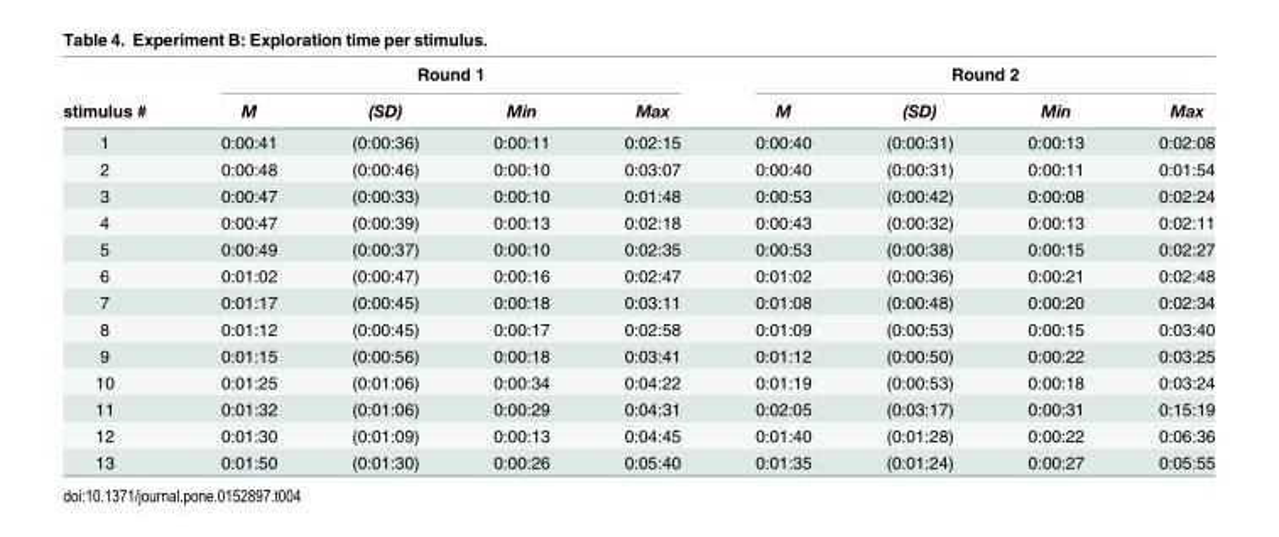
<table><thead><tr><td rowspan="2">stimulus #</td><td colspan="4">Round 1</td><td colspan="4">Round 2</td></tr><tr><td>M</td><td>(SD)</td><td>Min</td><td>Max</td><td>M</td><td>(SD)</td><td>Min</td><td>Max</td></tr></thead><tbody><tr><td>1</td><td>0:00:41</td><td>(0:00:36)</td><td>0:00:11</td><td>0:02:15</td><td>0:00:40</td><td>(0:00:31)</td><td>0:00:13</td><td>0:02:08</td></tr><tr><td>2</td><td>0:00:48</td><td>(0:00:46)</td><td>0:00:10</td><td>0:03:07</td><td>0:00:40</td><td>(0:00:31)</td><td>0:00:11</td><td>0:01:54</td></tr><tr><td>3</td><td>0:00:47</td><td>(0:00:33)</td><td>0:00:10</td><td>0:01:48</td><td>0:00:53</td><td>(0:00:42)</td><td>0:00:08</td><td>0:02:24</td></tr><tr><td>4</td><td>0:00:47</td><td>(0:00:39)</td><td>0:00:13</td><td>0:02:18</td><td>0:00:43</td><td>(0:00:32)</td><td>0:00:13</td><td>0:02:11</td></tr><tr><td>5</td><td>0:00:49</td><td>(0:00:37)</td><td>0:00:10</td><td>0:02:35</td><td>0:00:53</td><td>(0:00:38)</td><td>0:00:15</td><td>0:02:27</td></tr><tr><td>6</td><td>0:01:02</td><td>(0:00:47)</td><td>0:00:16</td><td>0:02:47</td><td>0:01:02</td><td>(0:00:36)</td><td>0:00:21</td><td>0:02:48</td></tr><tr><td>7</td><td>0:01:17</td><td>(0:00:45)</td><td>0:00:18</td><td>0:03:11</td><td>0:01:08</td><td>(0:00:48)</td><td>0:00:20</td><td>0:02:34</td></tr><tr><td>8</td><td>0:01:12</td><td>(0:00:45)</td><td>0:00:17</td><td>0:02:58</td><td>0:01:09</td><td>(0:00:53)</td><td>0:00:15</td><td>0:03:40</td></tr><tr><td>9</td><td>0:01:15</td><td>(0:00:56)</td><td>0:00:18</td><td>0:03:41</td><td>0:01:12</td><td>(0:00:50)</td><td>0:00:22</td><td>0:03:25</td></tr><tr><td>10</td><td>0:01:25</td><td>(0:01:06)</td><td>0:00:34</td><td>0:04:22</td><td>0:01:19</td><td>(0:00:53)</td><td>0:00:18</td><td>0:03:24</td></tr><tr><td>11</td><td>0:01:32</td><td>(0:01:06)</td><td>0:00:29</td><td>0:04:31</td><td>0:02:05</td><td>(0:03:17)</td><td>0:00:31</td><td>0:15:19</td></tr><tr><td>12</td><td>0:01:30</td><td>(0:01:09)</td><td>0:00:13</td><td>0:04:45</td><td>0:01:40</td><td>(0:01:28)</td><td>0:00:22</td><td>0:06:36</td></tr><tr><td>13</td><td>0:01:50</td><td>(0:01:30)</td><td>0:00:26</td><td>0:05:40</td><td>0:01:35</td><td>(0:01:24)</td><td>0:00:27</td><td>0:05:55</td></tr></tbody></table>